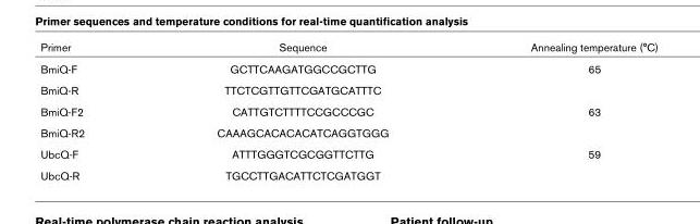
<table><thead><tr><td>Primer</td><td>Sequence</td><td>Annealing temperature (°C)</td></tr></thead><tbody><tr><td>BmiQ-F</td><td>GCTTCAAGATGGCCGCTTG</td><td>65</td></tr><tr><td>BmiQ-R</td><td>TTCTCGTTGTTCGATGCATTTC</td><td></td></tr><tr><td>BmiQ-F2</td><td>CATTGTCTTTTCCGCCCGC</td><td>63</td></tr><tr><td>BmiQ-R2</td><td>CAAAGCACACACATCAGGTGGG</td><td></td></tr><tr><td>UbcQ-F</td><td>ATTTGGGTCGCGGTTCTTG</td><td>59</td></tr><tr><td>UbcQ-R</td><td>TGCCTTGACATTCTCGATGGT</td><td></td></tr></tbody></table>